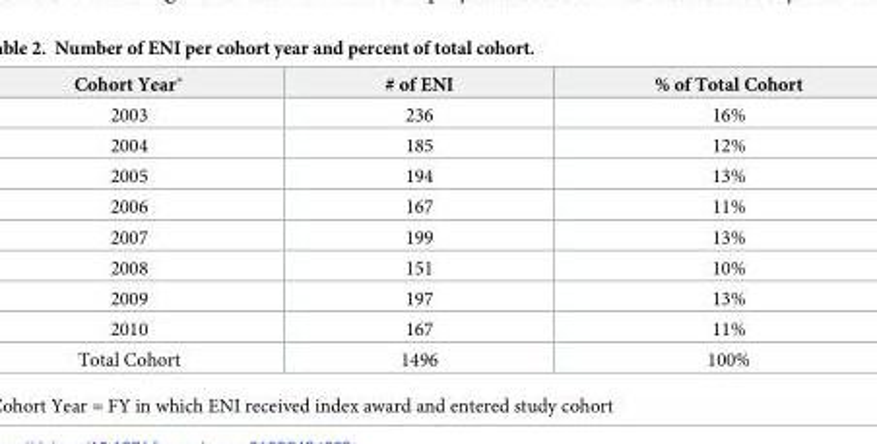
<table><thead><tr><td>Cohort Year*</td><td># of ENI</td><td>% of Total Cohort</td></tr></thead><tbody><tr><td>2003</td><td>236</td><td>16%</td></tr><tr><td>2004</td><td>185</td><td>12%</td></tr><tr><td>2005</td><td>194</td><td>13%</td></tr><tr><td>2006</td><td>167</td><td>11%</td></tr><tr><td>2007</td><td>199</td><td>13%</td></tr><tr><td>2008</td><td>151</td><td>10%</td></tr><tr><td>2009</td><td>197</td><td>13%</td></tr><tr><td>2010</td><td>167</td><td>11%</td></tr><tr><td>Total Cohort</td><td>1496</td><td>100%</td></tr></tbody></table>